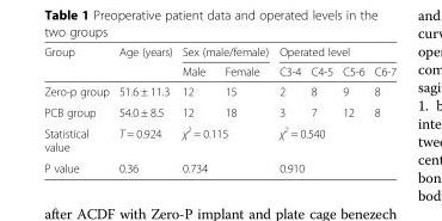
<table><thead><tr><td rowspan="2">Group</td><td rowspan="2">Age (years)</td><td colspan="2">Sex (male/female)</td><td colspan="4">Operated level</td></tr><tr><td>Male</td><td>Female</td><td>C3-4</td><td>C4-5</td><td>C5-6</td><td>C6-7</td></tr></thead><tbody><tr><td>Zero-p group</td><td>51.6 ± 11.3</td><td>12</td><td>15</td><td>2</td><td>8</td><td>9</td><td>8</td></tr><tr><td>PCB group</td><td>54.0 ± 8.5</td><td>12</td><td>18</td><td>3</td><td>7</td><td>12</td><td>8</td></tr><tr><td>Statistical value</td><td>T = 0.924</td><td colspan="2">χ<sup>2</sup> = 0.115</td><td colspan="4">χ<sup>2</sup> = 0.540</td></tr><tr><td>P value</td><td>0.36</td><td colspan="2">0.734</td><td colspan="4">0.910</td></tr></tbody></table>